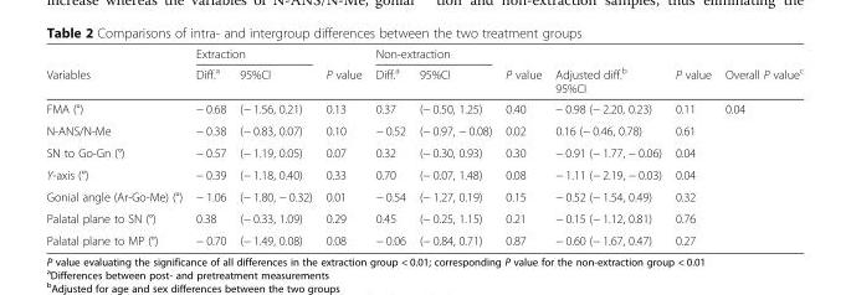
<table><thead><tr><td rowspan="2">Variables</td><td colspan="2">Extraction</td><td rowspan="2">P value</td><td colspan="2">Non-extraction</td><td rowspan="2">P value</td><td rowspan="2">Adjusted diff.<sup>b</sup> 95%CI</td><td rowspan="2">P value</td><td rowspan="2">Overall P value<sup>c</sup></td></tr><tr><td>Diff.<sup>a</sup></td><td>95%CI</td><td>Diff.<sup>a</sup></td><td>95%CI</td></tr></thead><tbody><tr><td>FMA (°)</td><td>− 0.68</td><td>(− 1.56, 0.21)</td><td>0.13</td><td>0.37</td><td>(− 0.50, 1.25)</td><td>0.40</td><td>− 0.98 (− 2.20, 0.23)</td><td>0.11</td><td>0.04</td></tr><tr><td>N-ANS/N-Me</td><td>− 0.38</td><td>(− 0.83, 0.07)</td><td>0.10</td><td>− 0.52</td><td>(− 0.97, − 0.08)</td><td>0.02</td><td>0.16 (− 0.46, 0.78)</td><td>0.61</td><td></td></tr><tr><td>SN to Go-Gn (°)</td><td>− 0.57</td><td>(− 1.19, 0.05)</td><td>0.07</td><td>0.32</td><td>(− 0.30, 0.93)</td><td>0.30</td><td>− 0.91 (− 1.77, − 0.06)</td><td>0.04</td><td></td></tr><tr><td>Y-axis (°)</td><td>− 0.39</td><td>(− 1.18, 0.40)</td><td>0.33</td><td>0.70</td><td>(− 0.07, 1.48)</td><td>0.08</td><td>− 1.11 (− 2.19, − 0.03)</td><td>0.04</td><td></td></tr><tr><td>Gonial angle (Ar-Go-Me) (°)</td><td>− 1.06</td><td>(− 1.80, − 0.32)</td><td>0.01</td><td>− 0.54</td><td>(− 1.27, 0.19)</td><td>0.15</td><td>− 0.52 (− 1.54, 0.49)</td><td>0.32</td><td></td></tr><tr><td>Palatal plane to SN (°)</td><td>0.38</td><td>(− 0.33, 1.09)</td><td>0.29</td><td>0.45</td><td>(− 0.25, 1.15)</td><td>0.21</td><td>− 0.15 (− 1.12, 0.81)</td><td>0.76</td><td></td></tr><tr><td>Palatal plane to MP (°)</td><td>− 0.70</td><td>(− 1.49, 0.08)</td><td>0.08</td><td>− 0.06</td><td>(− 0.84, 0.71)</td><td>0.87</td><td>− 0.60 (− 1.67, 0.47)</td><td>0.27</td><td></td></tr></tbody></table>